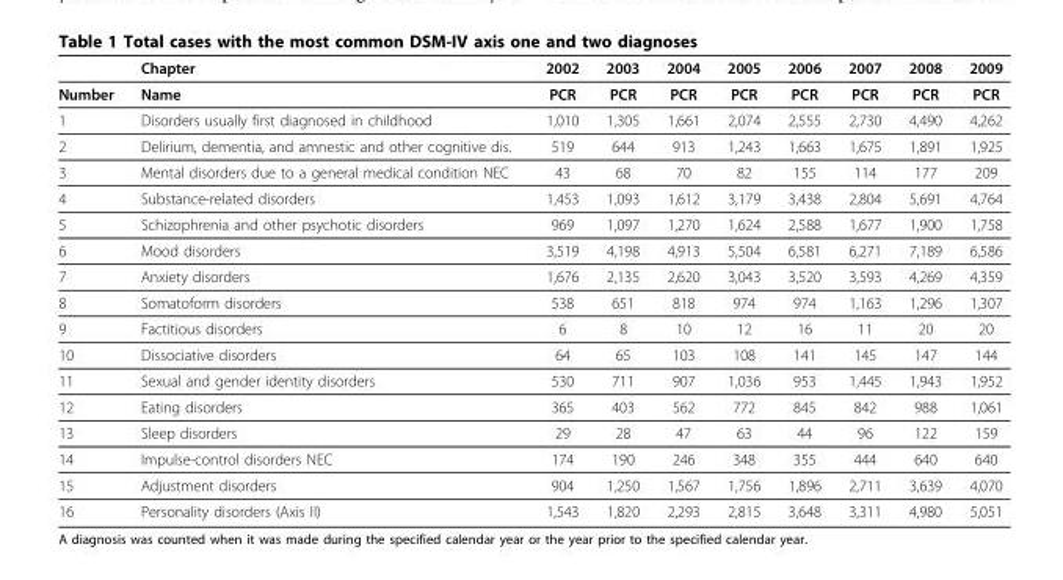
<table><thead><tr><td></td><td>Chapter</td><td>2002</td><td>2003</td><td>2004</td><td>2005</td><td>2006</td><td>2007</td><td>2008</td><td>2009</td></tr></thead><tbody><tr><td>Number</td><td>Name</td><td>PCR</td><td>PCR</td><td>PCR</td><td>PCR</td><td>PCR</td><td>PCR</td><td>PCR</td><td>PCR</td></tr><tr><td>1</td><td>Disorders usually first diagnosed in childhood</td><td>1,010</td><td>1,305</td><td>1,661</td><td>2,074</td><td>2,555</td><td>2,730</td><td>4,490</td><td>4,262</td></tr><tr><td>2</td><td>Delirium, dementia, and amnestic and other cognitive dis.</td><td>519</td><td>644</td><td>913</td><td>1,243</td><td>1,663</td><td>1,675</td><td>1,891</td><td>1,925</td></tr><tr><td>3</td><td>Mental disorders due to a general medical condition NEC</td><td>43</td><td>68</td><td>70</td><td>82</td><td>155</td><td>114</td><td>177</td><td>209</td></tr><tr><td>4</td><td>Substance-related disorders</td><td>1,453</td><td>1,093</td><td>1,612</td><td>3,179</td><td>3,438</td><td>2,804</td><td>5,691</td><td>4,764</td></tr><tr><td>5</td><td>Schizophrenia and other psychotic disorders</td><td>969</td><td>1,097</td><td>1,270</td><td>1,624</td><td>2,588</td><td>1,677</td><td>1,900</td><td>1,758</td></tr><tr><td>6</td><td>Mood disorders</td><td>3,519</td><td>4,198</td><td>4,913</td><td>5,504</td><td>6,581</td><td>6,271</td><td>7,189</td><td>6,586</td></tr><tr><td>7</td><td>Anxiety disorders</td><td>1,676</td><td>2,135</td><td>2,620</td><td>3,043</td><td>3,520</td><td>3,593</td><td>4,269</td><td>4,359</td></tr><tr><td>8</td><td>Somatoform disorders</td><td>538</td><td>651</td><td>818</td><td>974</td><td>974</td><td>1,163</td><td>1,296</td><td>1,307</td></tr><tr><td>9</td><td>Factitious disorders</td><td>6</td><td>8</td><td>10</td><td>12</td><td>16</td><td>11</td><td>20</td><td>20</td></tr><tr><td>10</td><td>Dissociative disorders</td><td>64</td><td>65</td><td>103</td><td>108</td><td>141</td><td>145</td><td>147</td><td>144</td></tr><tr><td>11</td><td>Sexual and gender identity disorders</td><td>530</td><td>711</td><td>907</td><td>1,036</td><td>953</td><td>1,445</td><td>1,943</td><td>1,952</td></tr><tr><td>12</td><td>Eating disorders</td><td>365</td><td>403</td><td>562</td><td>772</td><td>845</td><td>842</td><td>988</td><td>1,061</td></tr><tr><td>13</td><td>Sleep disorders</td><td>29</td><td>28</td><td>47</td><td>63</td><td>44</td><td>96</td><td>122</td><td>159</td></tr><tr><td>14</td><td>Impulse-control disorders NEC</td><td>174</td><td>190</td><td>246</td><td>348</td><td>355</td><td>444</td><td>640</td><td>640</td></tr><tr><td>15</td><td>Adjustment disorders</td><td>904</td><td>1,250</td><td>1,567</td><td>1,756</td><td>1,896</td><td>2,711</td><td>3,639</td><td>4,070</td></tr><tr><td>16</td><td>Personality disorders (Axis II)</td><td>1,543</td><td>1,820</td><td>2,293</td><td>2,815</td><td>3,648</td><td>3,311</td><td>4,980</td><td>5,051</td></tr></tbody></table>